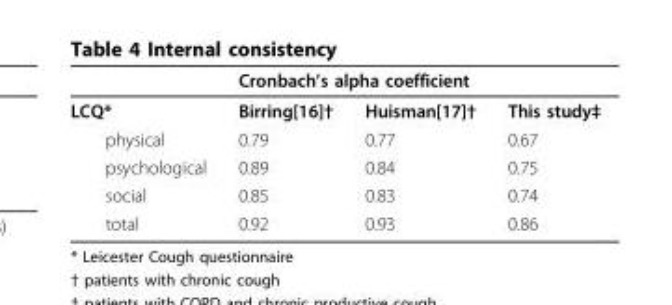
<table><thead><tr><td rowspan="2">LCQ*</td><td colspan="3">Cronbach’s alpha coefficient</td></tr><tr><td>Birring[16]†</td><td>Huisman[17]†</td><td>This study‡</td></tr></thead><tbody><tr><td>physical</td><td>0.79</td><td>0.77</td><td>0.67</td></tr><tr><td>psychological</td><td>0.89</td><td>0.84</td><td>0.75</td></tr><tr><td>social</td><td>0.85</td><td>0.83</td><td>0.74</td></tr><tr><td>total</td><td>0.92</td><td>0.93</td><td>0.86</td></tr></tbody></table>